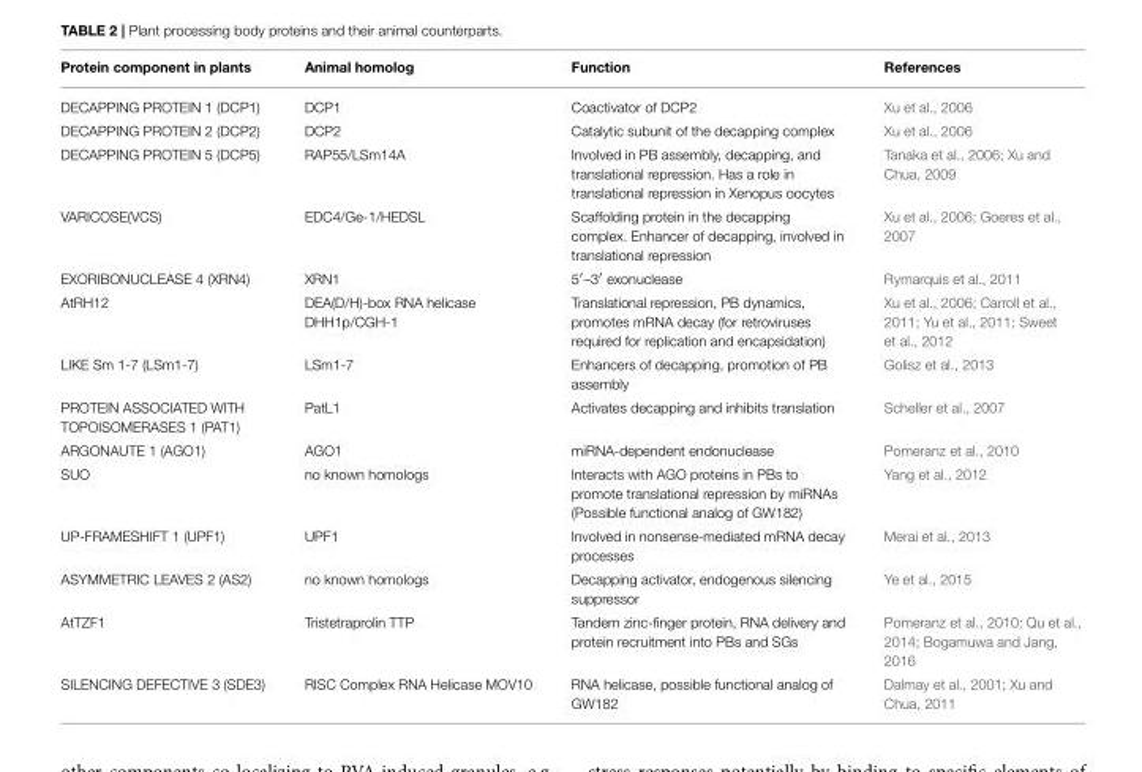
<table><thead><tr><td>Protein component in plants</td><td>Animal homolog</td><td>Function</td><td>References</td></tr></thead><tbody><tr><td>DECAPPING PROTEIN 1 (DCP1)</td><td>DCP1</td><td>Coactivator of DCP2</td><td>Xu et al., 2006</td></tr><tr><td>DECAPPING PROTEIN 2 (DCP2)</td><td>DCP2</td><td>Catalytic subunit of the decapping complex</td><td>Xu et al., 2006</td></tr><tr><td>DECAPPING PROTEIN 5 (DCP5)</td><td>RAP55/LSm14A</td><td>Involved in PB assembly, decapping, and translational repression. Has a role in translational repression in Xenopus oocytes</td><td>Tanaka et al., 2006; Xu and Chua, 2009</td></tr><tr><td>VARICOSE(VCS)</td><td>EDC4/Ge-1/HEDSL</td><td>Scaffolding protein in the decapping complex. Enhancer of decapping, involved in translational repression</td><td>Xu et al., 2006; Goeres et al., 2007</td></tr><tr><td>EXORIBONUCLEASE 4 (XRN4)</td><td>XRN1</td><td>5′–3′ exonuclease</td><td>Rymarquis et al., 2011</td></tr><tr><td>AtRH12</td><td>DEA(D/H)-box RNA helicase DHH1p/CGH-1</td><td>Translational repression, PB dynamics, promotes mRNA decay (for retroviruses required for replication and encapsidation)</td><td>Xu et al., 2006; Carroll et al., 2011; Yu et al., 2011; Sweet et al., 2012</td></tr><tr><td>LIKE Sm 1-7 (LSm1-7)</td><td>LSm1-7</td><td>Enhancers of decapping, promotion of PB assembly</td><td>Golisz et al., 2013</td></tr><tr><td>PROTEIN ASSOCIATED WITH TOPOISOMERASES 1 (PAT1)</td><td>PatL1</td><td>Activates decapping and inhibits translation</td><td>Scheller et al., 2007</td></tr><tr><td>ARGONAUTE 1 (AGO1)</td><td>AGO1</td><td>miRNA-dependent endonuclease</td><td>Pomeranz et al., 2010</td></tr><tr><td>SUO</td><td>no known homologs</td><td>Interacts with AGO proteins in PBs to promote translational repression by miRNAs (Possible functional analog of GW182)</td><td>Yang et al., 2012</td></tr><tr><td>UP-FRAMESHIFT 1 (UPF1)</td><td>UPF1</td><td>Involved in nonsense-mediated mRNA decay processes</td><td>Merai et al., 2013</td></tr><tr><td>ASYMMETRIC LEAVES 2 (AS2)</td><td>no known homologs</td><td>Decapping activator, endogenous silencing suppressor</td><td>Ye et al., 2015</td></tr><tr><td>AtTZF1</td><td>Tristetraprolin TTP</td><td>Tandem zinc-finger protein, RNA delivery and protein recruitment into PBs and SGs</td><td>Pomeranz et al., 2010; Qu et al., 2014; Bogamuwa and Jang, 2016</td></tr><tr><td>SILENCING DEFECTIVE 3 (SDE3)</td><td>RISC Complex RNA Helicase MOV10</td><td>RNA helicase, possible functional analog of GW182</td><td>Dalmay et al., 2001; Xu and Chua, 2011</td></tr></tbody></table>